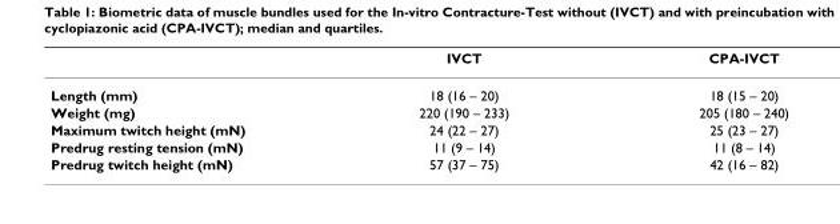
<table><thead><tr><td></td><td>IVCT</td><td>CPA-IVCT</td></tr></thead><tbody><tr><td>Length (mm)</td><td>18 (16 – 20)</td><td>18 (15 – 20)</td></tr><tr><td>Weight (mg)</td><td>220 (190 – 233)</td><td>205 (180 – 240)</td></tr><tr><td>Maximum twitch height (mN)</td><td>24 (22 – 27)</td><td>25 (23 – 27)</td></tr><tr><td>Predrug resting tension (mN)</td><td>11 (9 – 14)</td><td>11 (8 – 14)</td></tr><tr><td>Predrug twitch height (mN)</td><td>57 (37 – 75)</td><td>42 (16 – 82)</td></tr></tbody></table>